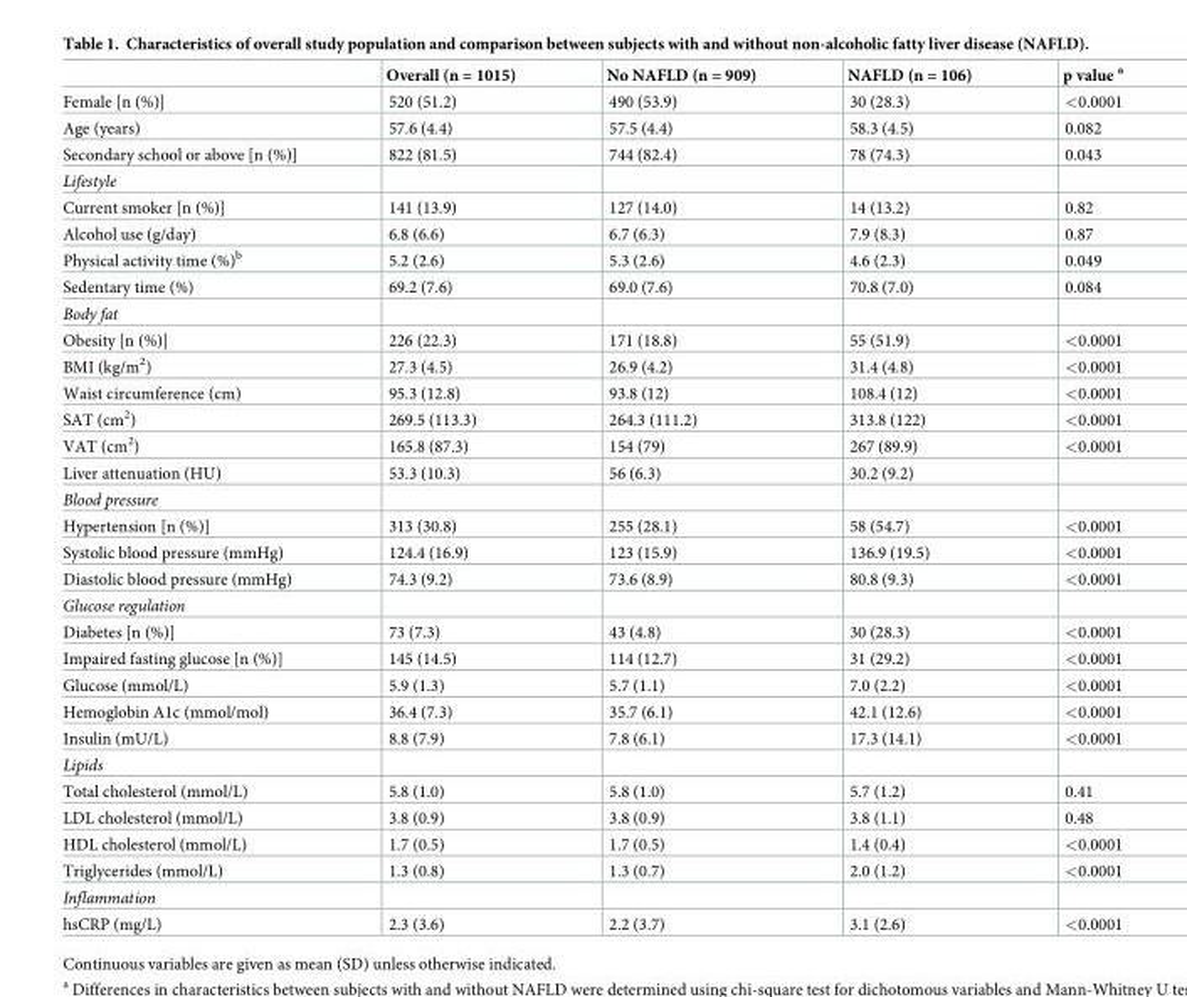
<table><thead><tr><td></td><td>Overall (n = 1015)</td><td>No NAFLD (n = 909)</td><td>NAFLD (n = 106)</td><td>p value <sup>a</sup></td></tr></thead><tbody><tr><td>Female [n (%)]</td><td>520 (51.2)</td><td>490 (53.9)</td><td>30 (28.3)</td><td>&lt;0.0001</td></tr><tr><td>Age (years)</td><td>57.6 (4.4)</td><td>57.5 (4.4)</td><td>58.3 (4.5)</td><td>0.082</td></tr><tr><td>Secondary school or above [n (%)]</td><td>822 (81.5)</td><td>744 (82.4)</td><td>78 (74.3)</td><td>0.043</td></tr><tr><td colspan="5">Lifestyle</td></tr><tr><td>Current smoker [n (%)]</td><td>141 (13.9)</td><td>127 (14.0)</td><td>14 (13.2)</td><td>0.82</td></tr><tr><td>Alcohol use (g/day)</td><td>6.8 (6.6)</td><td>6.7 (6.3)</td><td>7.9 (8.3)</td><td>0.87</td></tr><tr><td>Physical activity time (%)<sup>b</sup></td><td>5.2 (2.6)</td><td>5.3 (2.6)</td><td>4.6 (2.3)</td><td>0.049</td></tr><tr><td>Sedentary time (%)</td><td>69.2 (7.6)</td><td>69.0 (7.6)</td><td>70.8 (7.0)</td><td>0.084</td></tr><tr><td colspan="5">Body fat</td></tr><tr><td>Obesity [n (%)]</td><td>226 (22.3)</td><td>171 (18.8)</td><td>55 (51.9)</td><td>&lt;0.0001</td></tr><tr><td>BMI (kg/m<sup>2</sup>)</td><td>27.3 (4.5)</td><td>26.9 (4.2)</td><td>31.4 (4.8)</td><td>&lt;0.0001</td></tr><tr><td>Waist circumference (cm)</td><td>95.3 (12.8)</td><td>93.8 (12)</td><td>108.4 (12)</td><td>&lt;0.0001</td></tr><tr><td>SAT (cm<sup>2</sup>)</td><td>269.5 (113.3)</td><td>264.3 (111.2)</td><td>313.8 (122)</td><td>&lt;0.0001</td></tr><tr><td>VAT (cm<sup>2</sup>)</td><td>165.8 (87.3)</td><td>154 (79)</td><td>267 (89.9)</td><td>&lt;0.0001</td></tr><tr><td>Liver attenuation (HU)</td><td>53.3 (10.3)</td><td>56 (6.3)</td><td>30.2 (9.2)</td><td></td></tr><tr><td colspan="5">Blood pressure</td></tr><tr><td>Hypertension [n (%)]</td><td>313 (30.8)</td><td>255 (28.1)</td><td>58 (54.7)</td><td>&lt;0.0001</td></tr><tr><td>Systolic blood pressure (mmHg)</td><td>124.4 (16.9)</td><td>123 (15.9)</td><td>136.9 (19.5)</td><td>&lt;0.0001</td></tr><tr><td>Diastolic blood pressure (mmHg)</td><td>74.3 (9.2)</td><td>73.6 (8.9)</td><td>80.8 (9.3)</td><td>&lt;0.0001</td></tr><tr><td colspan="5">Glucose regulation</td></tr><tr><td>Diabetes [n (%)]</td><td>73 (7.3)</td><td>43 (4.8)</td><td>30 (28.3)</td><td>&lt;0.0001</td></tr><tr><td>Impaired fasting glucose [n (%)]</td><td>145 (14.5)</td><td>114 (12.7)</td><td>31 (29.2)</td><td>&lt;0.0001</td></tr><tr><td>Glucose (mmol/L)</td><td>5.9 (1.3)</td><td>5.7 (1.1)</td><td>7.0 (2.2)</td><td>&lt;0.0001</td></tr><tr><td>Hemoglobin A1c (mmol/mol)</td><td>36.4 (7.3)</td><td>35.7 (6.1)</td><td>42.1 (12.6)</td><td>&lt;0.0001</td></tr><tr><td>Insulin (mU/L)</td><td>8.8 (7.9)</td><td>7.8 (6.1)</td><td>17.3 (14.1)</td><td>&lt;0.0001</td></tr><tr><td colspan="5">Lipids</td></tr><tr><td>Total cholesterol (mmol/L)</td><td>5.8 (1.0)</td><td>5.8 (1.0)</td><td>5.7 (1.2)</td><td>0.41</td></tr><tr><td>LDL cholesterol (mmol/L)</td><td>3.8 (0.9)</td><td>3.8 (0.9)</td><td>3.8 (1.1)</td><td>0.48</td></tr><tr><td>HDL cholesterol (mmol/L)</td><td>1.7 (0.5)</td><td>1.7 (0.5)</td><td>1.4 (0.4)</td><td>&lt;0.0001</td></tr><tr><td>Triglycerides (mmol/L)</td><td>1.3 (0.8)</td><td>1.3 (0.7)</td><td>2.0 (1.2)</td><td>&lt;0.0001</td></tr><tr><td colspan="5">Inflammation</td></tr><tr><td>hsCRP (mg/L)</td><td>2.3 (3.6)</td><td>2.2 (3.7)</td><td>3.1 (2.6)</td><td>&lt;0.0001</td></tr></tbody></table>